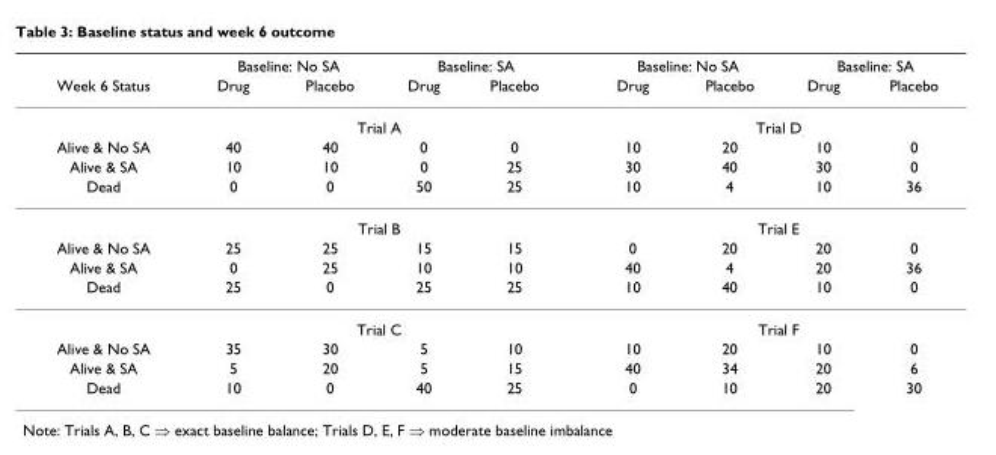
<table><thead><tr><td rowspan="2">Week 6 Status</td><td colspan="2">Baseline: No SA</td><td colspan="2">Baseline: SA</td><td colspan="2">Baseline: No SA</td><td colspan="2">Baseline: SA</td></tr><tr><td>Drug</td><td>Placebo</td><td>Drug</td><td>Placebo</td><td>Drug</td><td>Placebo</td><td>Drug</td><td>Placebo</td></tr></thead><tbody><tr><td></td><td colspan="4">Trial A</td><td colspan="4">Trial D</td></tr><tr><td>Alive &amp; No SA</td><td>40</td><td>40</td><td>0</td><td>0</td><td>10</td><td>20</td><td>10</td><td>0</td></tr><tr><td>Alive &amp; SA</td><td>10</td><td>10</td><td>0</td><td>25</td><td>30</td><td>40</td><td>30</td><td>0</td></tr><tr><td rowspan="2">Dead</td><td>0</td><td>0</td><td>50</td><td>25</td><td>10</td><td>4</td><td>10</td><td>36</td></tr><tr><td colspan="4">Trial B</td><td colspan="4">Trial E</td></tr><tr><td>Alive &amp; No SA</td><td>25</td><td>25</td><td>15</td><td>15</td><td>0</td><td>20</td><td>20</td><td>0</td></tr><tr><td>Alive &amp; SA</td><td>0</td><td>25</td><td>10</td><td>10</td><td>40</td><td>4</td><td>20</td><td>36</td></tr><tr><td rowspan="2">Dead</td><td>25</td><td>0</td><td>25</td><td>25</td><td>10</td><td>40</td><td>10</td><td>0</td></tr><tr><td colspan="4">Trial C</td><td colspan="4">Trial F</td></tr><tr><td>Alive &amp; No SA</td><td>35</td><td>30</td><td>5</td><td>10</td><td>10</td><td>20</td><td>10</td><td>0</td></tr><tr><td>Alive &amp; SA</td><td>5</td><td>20</td><td>5</td><td>15</td><td>40</td><td>34</td><td>20</td><td>6</td></tr><tr><td>Dead</td><td>10</td><td>0</td><td>40</td><td>25</td><td>0</td><td>10</td><td>20</td><td>30</td></tr></tbody></table>